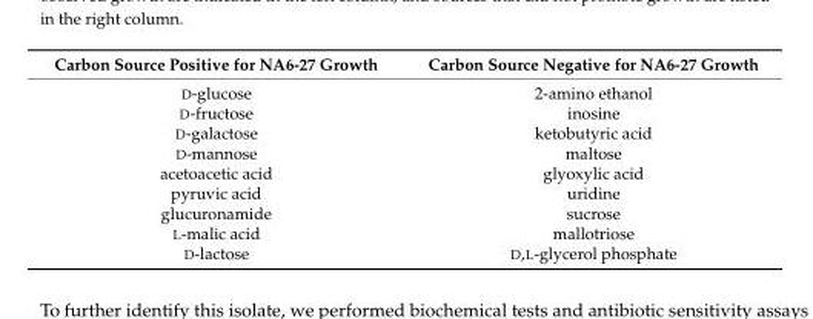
<table><thead><tr><td>Carbon Source Positive for NA6-27 Growth</td><td>Carbon Source Negative for NA6-27 Growth</td></tr></thead><tbody><tr><td>D-glucose</td><td>2-amino ethanol</td></tr><tr><td>D-fructose</td><td>inosine</td></tr><tr><td>D-galactose</td><td>ketobutyric acid</td></tr><tr><td>D-mannose</td><td>maltose</td></tr><tr><td>acetoacetic acid</td><td>glyoxylic acid</td></tr><tr><td>pyruvic acid</td><td>uridine</td></tr><tr><td>glucuronamide</td><td>sucrose</td></tr><tr><td>L-malic acid</td><td>mallotriose</td></tr><tr><td>D-lactose</td><td>D,L-glycerol phosphate</td></tr></tbody></table>